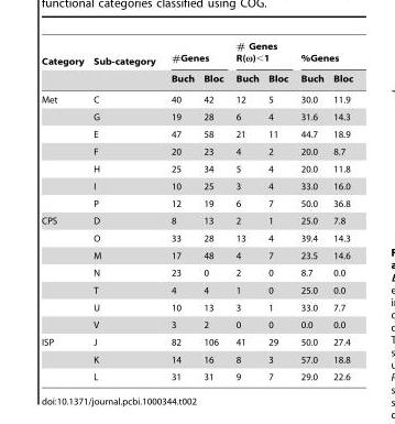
<table><thead><tr><td rowspan="2">Category</td><td rowspan="2">Sub-category</td><td colspan="2">#Genes</td><td colspan="2"># Genes R(ω)&lt;1</td><td colspan="2">%Genes</td></tr><tr><td>Buch</td><td>Bloc</td><td>Buch</td><td>Bloc</td><td>Buch</td><td>Bloc</td></tr></thead><tbody><tr><td rowspan="7">Met</td><td>C</td><td>40</td><td>42</td><td>12</td><td>5</td><td>30.0</td><td>11.9</td></tr><tr><td>G</td><td>19</td><td>28</td><td>6</td><td>4</td><td>31.6</td><td>14.3</td></tr><tr><td>E</td><td>47</td><td>58</td><td>21</td><td>11</td><td>44.7</td><td>18.9</td></tr><tr><td>F</td><td>20</td><td>23</td><td>4</td><td>2</td><td>20.0</td><td>8.7</td></tr><tr><td>H</td><td>25</td><td>34</td><td>5</td><td>4</td><td>20.0</td><td>11.8</td></tr><tr><td>I</td><td>10</td><td>25</td><td>3</td><td>4</td><td>33.0</td><td>16.0</td></tr><tr><td>P</td><td>12</td><td>19</td><td>6</td><td>7</td><td>50.0</td><td>36.8</td></tr><tr><td rowspan="7">CPS</td><td>D</td><td>8</td><td>13</td><td>2</td><td>1</td><td>25.0</td><td>7.8</td></tr><tr><td>O</td><td>33</td><td>28</td><td>13</td><td>4</td><td>39.4</td><td>14.3</td></tr><tr><td>M</td><td>17</td><td>48</td><td>4</td><td>7</td><td>23.5</td><td>14.6</td></tr><tr><td>N</td><td>23</td><td>0</td><td>2</td><td>0</td><td>8.7</td><td>0.0</td></tr><tr><td>T</td><td>4</td><td>4</td><td>1</td><td>0</td><td>25.0</td><td>0.0</td></tr><tr><td>U</td><td>10</td><td>13</td><td>3</td><td>1</td><td>33.0</td><td>7.7</td></tr><tr><td>V</td><td>3</td><td>2</td><td>0</td><td>0</td><td>0.0</td><td>0.0</td></tr><tr><td rowspan="3">ISP</td><td>J</td><td>82</td><td>106</td><td>41</td><td>29</td><td>50.0</td><td>27.4</td></tr><tr><td>K</td><td>14</td><td>16</td><td>8</td><td>3</td><td>57.0</td><td>18.8</td></tr><tr><td>L</td><td>31</td><td>31</td><td>9</td><td>7</td><td>29.0</td><td>22.6</td></tr></tbody></table>